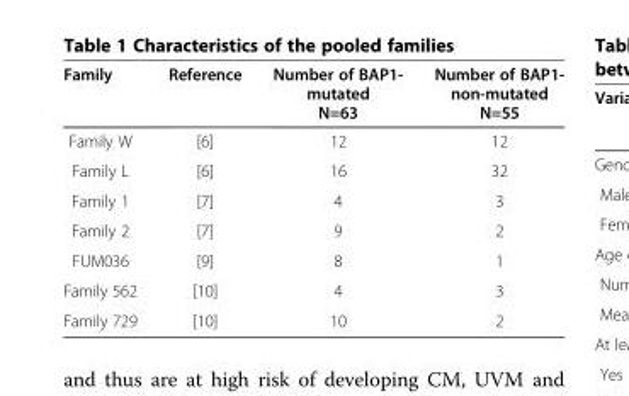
<table><thead><tr><td>Family</td><td>Reference</td><td>Number of BAP1- mutated N=63</td><td>Number of BAP1- non-mutated N=55</td></tr></thead><tbody><tr><td>Family W</td><td>[6]</td><td>12</td><td>12</td></tr><tr><td>Family L</td><td>[6]</td><td>16</td><td>32</td></tr><tr><td>Family 1</td><td>[7]</td><td>4</td><td>3</td></tr><tr><td>Family 2</td><td>[7]</td><td>9</td><td>2</td></tr><tr><td>FUM036</td><td>[9]</td><td>8</td><td>1</td></tr><tr><td>Family 562</td><td>[10]</td><td>4</td><td>3</td></tr><tr><td>Family 729</td><td>[10]</td><td>10</td><td>2</td></tr></tbody></table>